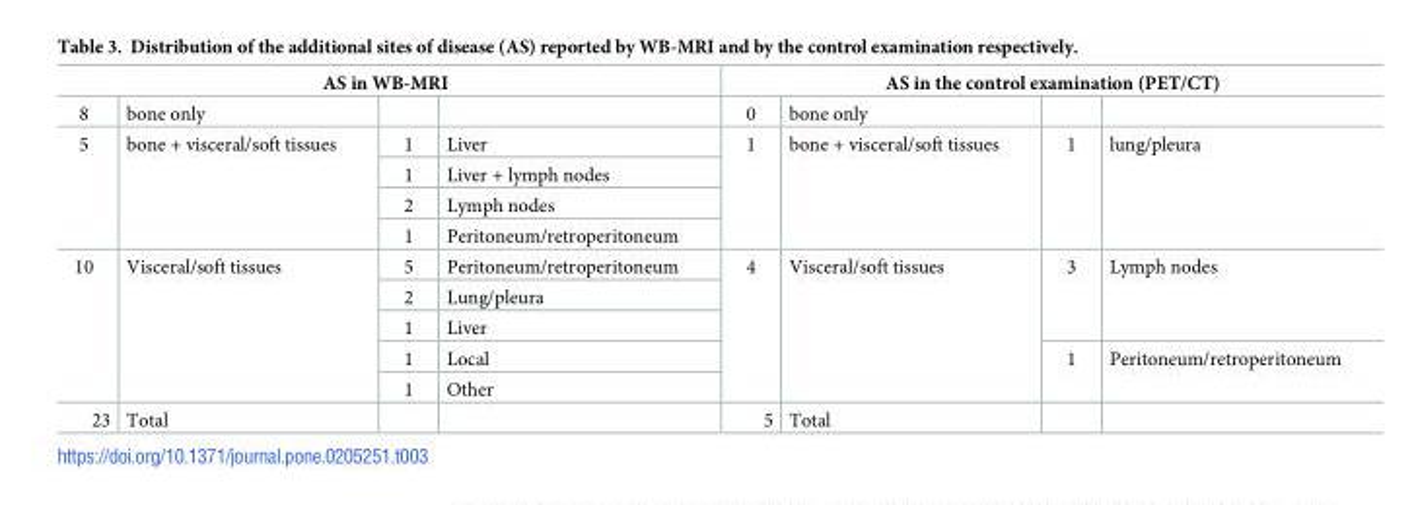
<table><thead><tr><td colspan="4">AS in WB-MRI</td><td colspan="4">AS in the control examination (PET/CT)</td></tr><tr><td>8</td><td>bone only</td><td></td><td></td><td>0</td><td>bone only</td><td></td><td></td></tr></thead><tbody><tr><td rowspan="4">5</td><td rowspan="4">bone + visceral/soft tissues</td><td>1</td><td>Liver</td><td rowspan="4">1</td><td rowspan="4">bone + visceral/soft tissues</td><td rowspan="4">1</td><td rowspan="4">lung/pleura</td></tr><tr><td>1</td><td>Liver + lymph nodes</td></tr><tr><td>2</td><td>Lymph nodes</td></tr><tr><td>1</td><td>Peritoneum/retroperitoneum</td></tr><tr><td rowspan="5">10</td><td rowspan="5">Visceral/soft tissues</td><td>5</td><td>Peritoneum/retroperitoneum</td><td rowspan="5">4</td><td rowspan="5">Visceral/soft tissues</td><td rowspan="3">3</td><td rowspan="3">Lymph nodes</td></tr><tr><td>2</td><td>Lung/pleura</td></tr><tr><td>1</td><td>Liver</td></tr><tr><td>1</td><td>Local</td><td rowspan="2">1</td><td rowspan="2">Peritoneum/retroperitoneum</td></tr><tr><td>1</td><td>Other</td></tr><tr><td>23</td><td>Total</td><td></td><td></td><td>5</td><td>Total</td><td></td><td></td></tr></tbody></table>